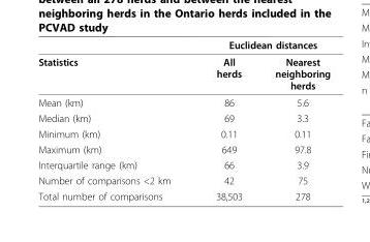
<table><thead><tr><td rowspan="2">Statistics</td><td colspan="2">Euclidean distances</td></tr><tr><td>All herds</td><td>Nearest neighboring herds</td></tr></thead><tbody><tr><td>Mean (km)</td><td>86</td><td>5.6</td></tr><tr><td>Median (km)</td><td>69</td><td>3.3</td></tr><tr><td>Minimum (km)</td><td>0.11</td><td>0.11</td></tr><tr><td>Maximum (km)</td><td>649</td><td>97.8</td></tr><tr><td>Interquartile range (km)</td><td>66</td><td>3.9</td></tr><tr><td>Number of comparisons &lt;2 km</td><td>42</td><td>75</td></tr><tr><td>Total number of comparisons</td><td>38,503</td><td>278</td></tr></tbody></table>